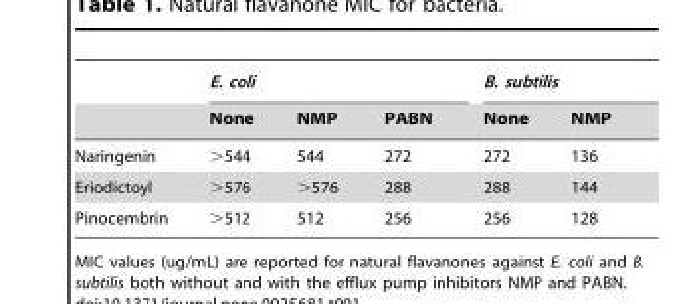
<table><thead><tr><td rowspan="2"></td><td colspan="3">E. coli</td><td colspan="2">B. subtilis</td></tr><tr><td>None</td><td>NMP</td><td>PABN</td><td>None</td><td>NMP</td></tr></thead><tbody><tr><td>Naringenin</td><td>&gt;544</td><td>544</td><td>272</td><td>272</td><td>136</td></tr><tr><td>Eriodictoyl</td><td>&gt;576</td><td>&gt;576</td><td>288</td><td>288</td><td>144</td></tr><tr><td>Pinocembrin</td><td>&gt;512</td><td>512</td><td>256</td><td>256</td><td>128</td></tr></tbody></table>